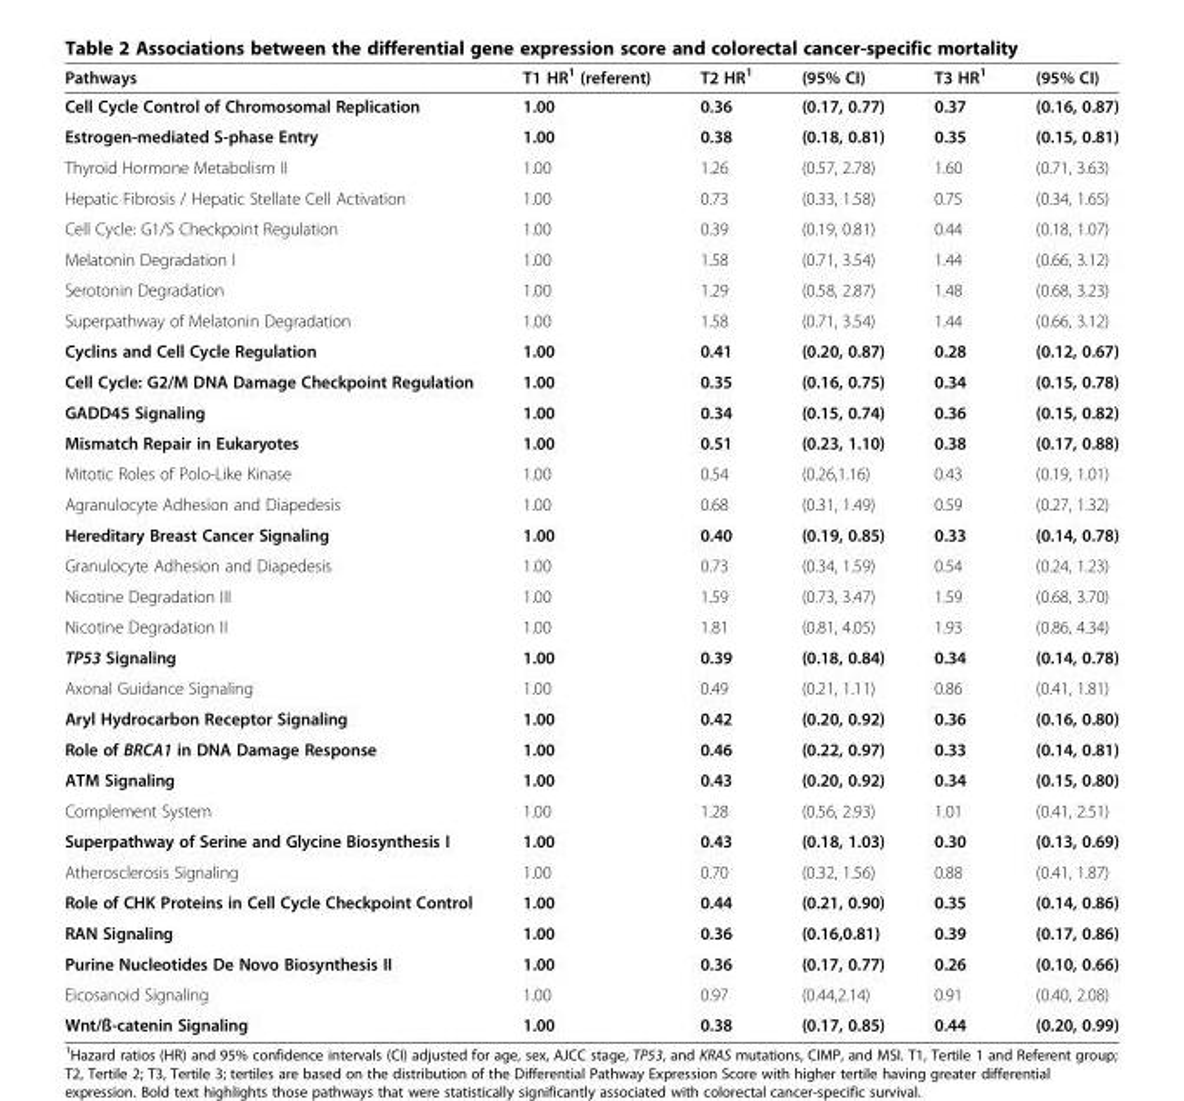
<table><thead><tr><td>Pathways</td><td>T1 HR<sup>1</sup> (referent)</td><td>T2 HR<sup>1</sup></td><td>(95% CI)</td><td>T3 HR<sup>1</sup></td><td>(95% CI)</td></tr></thead><tbody><tr><td>Cell Cycle Control of Chromosomal Replication</td><td>1.00</td><td>0.36</td><td>(0.17, 0.77)</td><td>0.37</td><td>(0.16, 0.87)</td></tr><tr><td>Estrogen-mediated S-phase Entry</td><td>1.00</td><td>0.38</td><td>(0.18, 0.81)</td><td>0.35</td><td>(0.15, 0.81)</td></tr><tr><td>Thyroid Hormone Metabolism II</td><td>1.00</td><td>1.26</td><td>(0.57, 2.78)</td><td>1.60</td><td>(0.71, 3.63)</td></tr><tr><td>Hepatic Fibrosis / Hepatic Stellate Cell Activation</td><td>1.00</td><td>0.73</td><td>(0.33, 1.58)</td><td>0.75</td><td>(0.34, 1.65)</td></tr><tr><td>Cell Cycle: G1/S Checkpoint Regulation</td><td>1.00</td><td>0.39</td><td>(0.19, 0.81)</td><td>0.44</td><td>(0.18, 1.07)</td></tr><tr><td>Melatonin Degradation I</td><td>1.00</td><td>1.58</td><td>(0.71, 3.54)</td><td>1.44</td><td>(0.66, 3.12)</td></tr><tr><td>Serotonin Degradation</td><td>1.00</td><td>1.29</td><td>(0.58, 2.87)</td><td>1.48</td><td>(0.68, 3.23)</td></tr><tr><td>Superpathway of Melatonin Degradation</td><td>1.00</td><td>1.58</td><td>(0.71, 3.54)</td><td>1.44</td><td>(0.66, 3.12)</td></tr><tr><td>Cyclins and Cell Cycle Regulation</td><td>1.00</td><td>0.41</td><td>(0.20, 0.87)</td><td>0.28</td><td>(0.12, 0.67)</td></tr><tr><td>Cell Cycle: G2/M DNA Damage Checkpoint Regulation</td><td>1.00</td><td>0.35</td><td>(0.16, 0.75)</td><td>0.34</td><td>(0.15, 0.78)</td></tr><tr><td>GADD45 Signaling</td><td>1.00</td><td>0.34</td><td>(0.15, 0.74)</td><td>0.36</td><td>(0.15, 0.82)</td></tr><tr><td>Mismatch Repair in Eukaryotes</td><td>1.00</td><td>0.51</td><td>(0.23, 1.10)</td><td>0.38</td><td>(0.17, 0.88)</td></tr><tr><td>Mitotic Roles of Polo-Like Kinase</td><td>1.00</td><td>0.54</td><td>(0.26,1.16)</td><td>0.43</td><td>(0.19, 1.01)</td></tr><tr><td>Agranulocyte Adhesion and Diapedesis</td><td>1.00</td><td>0.68</td><td>(0.31, 1.49)</td><td>0.59</td><td>(0.27, 1.32)</td></tr><tr><td>Hereditary Breast Cancer Signaling</td><td>1.00</td><td>0.40</td><td>(0.19, 0.85)</td><td>0.33</td><td>(0.14, 0.78)</td></tr><tr><td>Granulocyte Adhesion and Diapedesis</td><td>1.00</td><td>0.73</td><td>(0.34, 1.59)</td><td>0.54</td><td>(0.24, 1.23)</td></tr><tr><td>Nicotine Degradation III</td><td>1.00</td><td>1.59</td><td>(0.73, 3.47)</td><td>1.59</td><td>(0.68, 3.70)</td></tr><tr><td>Nicotine Degradation II</td><td>1.00</td><td>1.81</td><td>(0.81, 4.05)</td><td>1.93</td><td>(0.86, 4.34)</td></tr><tr><td>TP53 Signaling</td><td>1.00</td><td>0.39</td><td>(0.18, 0.84)</td><td>0.34</td><td>(0.14, 0.78)</td></tr><tr><td>Axonal Guidance Signaling</td><td>1.00</td><td>0.49</td><td>(0.21, 1.11)</td><td>0.86</td><td>(0.41, 1.81)</td></tr><tr><td>Aryl Hydrocarbon Receptor Signaling</td><td>1.00</td><td>0.42</td><td>(0.20, 0.92)</td><td>0.36</td><td>(0.16, 0.80)</td></tr><tr><td>Role of BRCA1 in DNA Damage Response</td><td>1.00</td><td>0.46</td><td>(0.22, 0.97)</td><td>0.33</td><td>(0.14, 0.81)</td></tr><tr><td>ATM Signaling</td><td>1.00</td><td>0.43</td><td>(0.20, 0.92)</td><td>0.34</td><td>(0.15, 0.80)</td></tr><tr><td>Complement System</td><td>1.00</td><td>1.28</td><td>(0.56, 2.93)</td><td>1.01</td><td>(0.41, 2.51)</td></tr><tr><td>Superpathway of Serine and Glycine Biosynthesis I</td><td>1.00</td><td>0.43</td><td>(0.18, 1.03)</td><td>0.30</td><td>(0.13, 0.69)</td></tr><tr><td>Atherosclerosis Signaling</td><td>1.00</td><td>0.70</td><td>(0.32, 1.56)</td><td>0.88</td><td>(0.41, 1.87)</td></tr><tr><td>Role of CHK Proteins in Cell Cycle Checkpoint Control</td><td>1.00</td><td>0.44</td><td>(0.21, 0.90)</td><td>0.35</td><td>(0.14, 0.86)</td></tr><tr><td>RAN Signaling</td><td>1.00</td><td>0.36</td><td>(0.16,0.81)</td><td>0.39</td><td>(0.17, 0.86)</td></tr><tr><td>Purine Nucleotides De Novo Biosynthesis II</td><td>1.00</td><td>0.36</td><td>(0.17, 0.77)</td><td>0.26</td><td>(0.10, 0.66)</td></tr><tr><td>Eicosanoid Signaling</td><td>1.00</td><td>0.97</td><td>(0.44,2.14)</td><td>0.91</td><td>(0.40, 2.08)</td></tr><tr><td>Wnt/ß-catenin Signaling</td><td>1.00</td><td>0.38</td><td>(0.17, 0.85)</td><td>0.44</td><td>(0.20, 0.99)</td></tr></tbody></table>